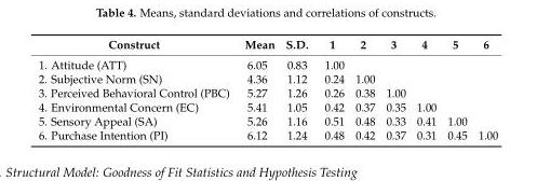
<table><thead><tr><td>Construct</td><td>Mean</td><td>S.D.</td><td>1</td><td>2</td><td>3</td><td>4</td><td>5</td><td>6</td></tr></thead><tbody><tr><td>1. Attitude (ATT)</td><td>6.05</td><td>0.83</td><td>1.00</td><td></td><td></td><td></td><td></td><td></td></tr><tr><td>2. Subjective Norm (SN)</td><td>4.36</td><td>1.12</td><td>0.24</td><td>1.00</td><td></td><td></td><td></td><td></td></tr><tr><td>3. Perceived Behavioral Control (PBC)</td><td>5.27</td><td>1.26</td><td>0.26</td><td>0.38</td><td>1.00</td><td></td><td></td><td></td></tr><tr><td>4. Environmental Concern (EC)</td><td>5.41</td><td>1.05</td><td>0.42</td><td>0.37</td><td>0.35</td><td>1.00</td><td></td><td></td></tr><tr><td>5. Sensory Appeal (SA)</td><td>5.26</td><td>1.16</td><td>0.51</td><td>0.48</td><td>0.33</td><td>0.41</td><td>1.00</td><td></td></tr><tr><td>6. Purchase Intention (PI)</td><td>6.12</td><td>1.24</td><td>0.48</td><td>0.42</td><td>0.37</td><td>0.31</td><td>0.45</td><td>1.00</td></tr></tbody></table>